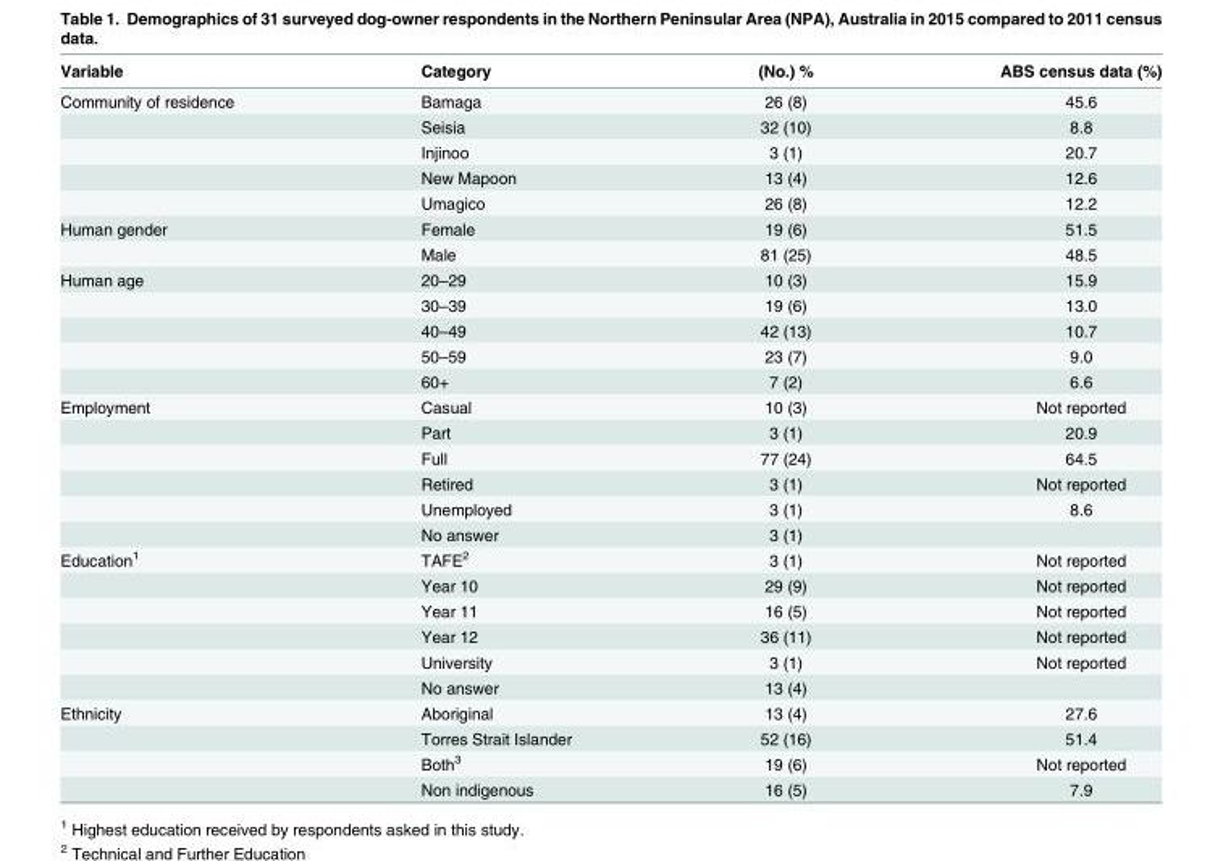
<table><thead><tr><td>Variable</td><td>Category</td><td>(No.) %</td><td>ABS census data (%)</td></tr></thead><tbody><tr><td rowspan="5">Community of residence</td><td>Bamaga</td><td>26 (8)</td><td>45.6</td></tr><tr><td>Seisia</td><td>32 (10)</td><td>8.8</td></tr><tr><td>Injinoo</td><td>3 (1)</td><td>20.7</td></tr><tr><td>New Mapoon</td><td>13 (4)</td><td>12.6</td></tr><tr><td>Umagico</td><td>26 (8)</td><td>12.2</td></tr><tr><td rowspan="2">Human gender</td><td>Female</td><td>19 (6)</td><td>51.5</td></tr><tr><td>Male</td><td>81 (25)</td><td>48.5</td></tr><tr><td rowspan="5">Human age</td><td>20–29</td><td>10 (3)</td><td>15.9</td></tr><tr><td>30–39</td><td>19 (6)</td><td>13.0</td></tr><tr><td>40–49</td><td>42 (13)</td><td>10.7</td></tr><tr><td>50–59</td><td>23 (7)</td><td>9.0</td></tr><tr><td>60+</td><td>7 (2)</td><td>6.6</td></tr><tr><td rowspan="6">Employment</td><td>Casual</td><td>10 (3)</td><td>Not reported</td></tr><tr><td>Part</td><td>3 (1)</td><td>20.9</td></tr><tr><td>Full</td><td>77 (24)</td><td>64.5</td></tr><tr><td>Retired</td><td>3 (1)</td><td>Not reported</td></tr><tr><td>Unemployed</td><td>3 (1)</td><td>8.6</td></tr><tr><td>No answer</td><td>3 (1)</td><td></td></tr><tr><td rowspan="6">Education<sup>1</sup></td><td>TAFE<sup>2</sup></td><td>3 (1)</td><td>Not reported</td></tr><tr><td>Year 10</td><td>29 (9)</td><td>Not reported</td></tr><tr><td>Year 11</td><td>16 (5)</td><td>Not reported</td></tr><tr><td>Year 12</td><td>36 (11)</td><td>Not reported</td></tr><tr><td>University</td><td>3 (1)</td><td>Not reported</td></tr><tr><td>No answer</td><td>13 (4)</td><td></td></tr><tr><td rowspan="4">Ethnicity</td><td>Aboriginal</td><td>13 (4)</td><td>27.6</td></tr><tr><td>Torres Strait Islander</td><td>52 (16)</td><td>51.4</td></tr><tr><td>Both<sup>3</sup></td><td>19 (6)</td><td>Not reported</td></tr><tr><td>Non indigenous</td><td>16 (5)</td><td>7.9</td></tr></tbody></table>